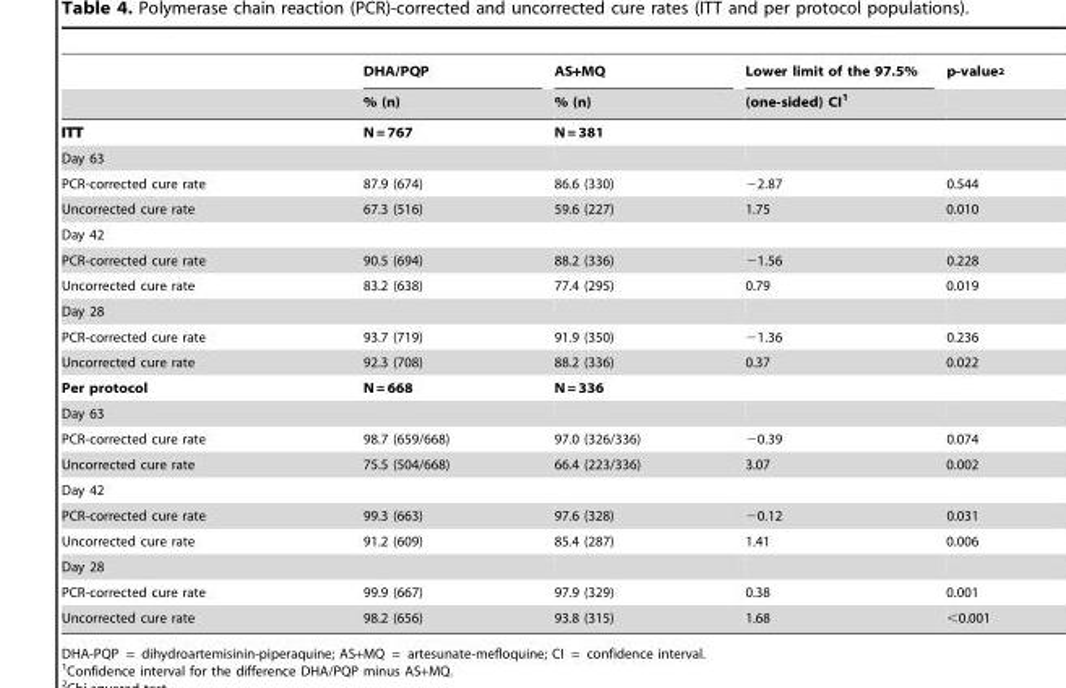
<table><thead><tr><td rowspan="2"></td><td rowspan="2">DHA/PQP % (n)</td><td rowspan="2">AS+MQ % (n)</td><td rowspan="2">Lower limit of the 97.5% (one-sided) CI<sup>1</sup></td><td rowspan="2">p-value<sup>2</sup></td></tr><tr></tr></thead><tbody><tr><td>ITT</td><td>N = 767</td><td>N = 381</td><td></td><td></td></tr><tr><td colspan="5">Day 63</td></tr><tr><td>PCR-corrected cure rate</td><td>87.9 (674)</td><td>86.6 (330)</td><td>−2.87</td><td>0.544</td></tr><tr><td>Uncorrected cure rate</td><td>67.3 (516)</td><td>59.6 (227)</td><td>1.75</td><td>0.010</td></tr><tr><td colspan="5">Day 42</td></tr><tr><td>PCR-corrected cure rate</td><td>90.5 (694)</td><td>88.2 (336)</td><td>−1.56</td><td>0.228</td></tr><tr><td>Uncorrected cure rate</td><td>83.2 (638)</td><td>77.4 (295)</td><td>0.79</td><td>0.019</td></tr><tr><td colspan="5">Day 28</td></tr><tr><td>PCR-corrected cure rate</td><td>93.7 (719)</td><td>91.9 (350)</td><td>−1.36</td><td>0.236</td></tr><tr><td>Uncorrected cure rate</td><td>92.3 (708)</td><td>88.2 (336)</td><td>0.37</td><td>0.022</td></tr><tr><td>Per protocol</td><td>N = 668</td><td>N = 336</td><td></td><td></td></tr><tr><td colspan="5">Day 63</td></tr><tr><td>PCR-corrected cure rate</td><td>98.7 (659/668)</td><td>97.0 (326/336)</td><td>−0.39</td><td>0.074</td></tr><tr><td>Uncorrected cure rate</td><td>75.5 (504/668)</td><td>66.4 (223/336)</td><td>3.07</td><td>0.002</td></tr><tr><td colspan="5">Day 42</td></tr><tr><td>PCR-corrected cure rate</td><td>99.3 (663)</td><td>97.6 (328)</td><td>−0.12</td><td>0.031</td></tr><tr><td>Uncorrected cure rate</td><td>91.2 (609)</td><td>85.4 (287)</td><td>1.41</td><td>0.006</td></tr><tr><td colspan="5">Day 28</td></tr><tr><td>PCR-corrected cure rate</td><td>99.9 (667)</td><td>97.9 (329)</td><td>0.38</td><td>0.001</td></tr><tr><td>Uncorrected cure rate</td><td>98.2 (656)</td><td>93.8 (315)</td><td>1.68</td><td>&lt;0.001</td></tr></tbody></table>